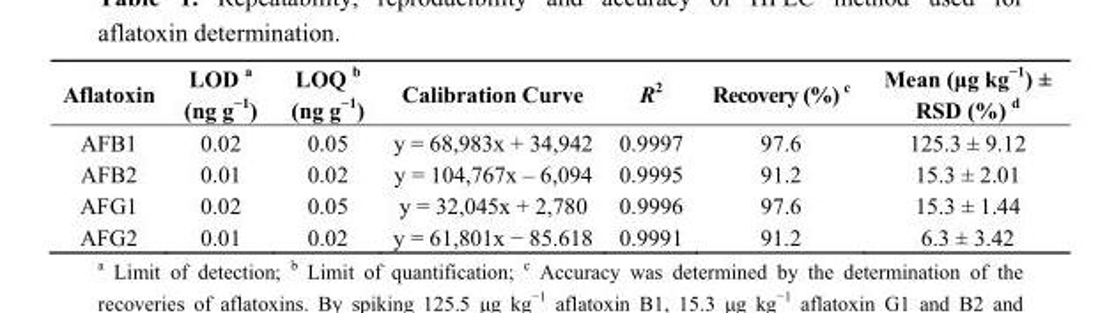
<table><thead><tr><td>Aflatoxin</td><td>LOD a (ng g<sup>−1</sup>)</td><td>LOQ b (ng g<sup>−1</sup>)</td><td>Calibration Curve</td><td>R<sup>2</sup></td><td>Recovery (%) c</td><td>Mean (μg kg<sup>−1</sup>) ± RSD (%) d</td></tr></thead><tbody><tr><td>AFB1</td><td>0.02</td><td>0.05</td><td>y = 68,983x + 34,942</td><td>0.9997</td><td>97.6</td><td>125.3 ± 9.12</td></tr><tr><td>AFB2</td><td>0.01</td><td>0.02</td><td>y = 104,767x – 6,094</td><td>0.9995</td><td>91.2</td><td>15.3 ± 2.01</td></tr><tr><td>AFG1</td><td>0.02</td><td>0.05</td><td>y = 32,045x + 2,780</td><td>0.9996</td><td>97.6</td><td>15.3 ± 1.44</td></tr><tr><td>AFG2</td><td>0.01</td><td>0.02</td><td>y = 61,801x − 85.618</td><td>0.9991</td><td>91.2</td><td>6.3 ± 3.42</td></tr></tbody></table>